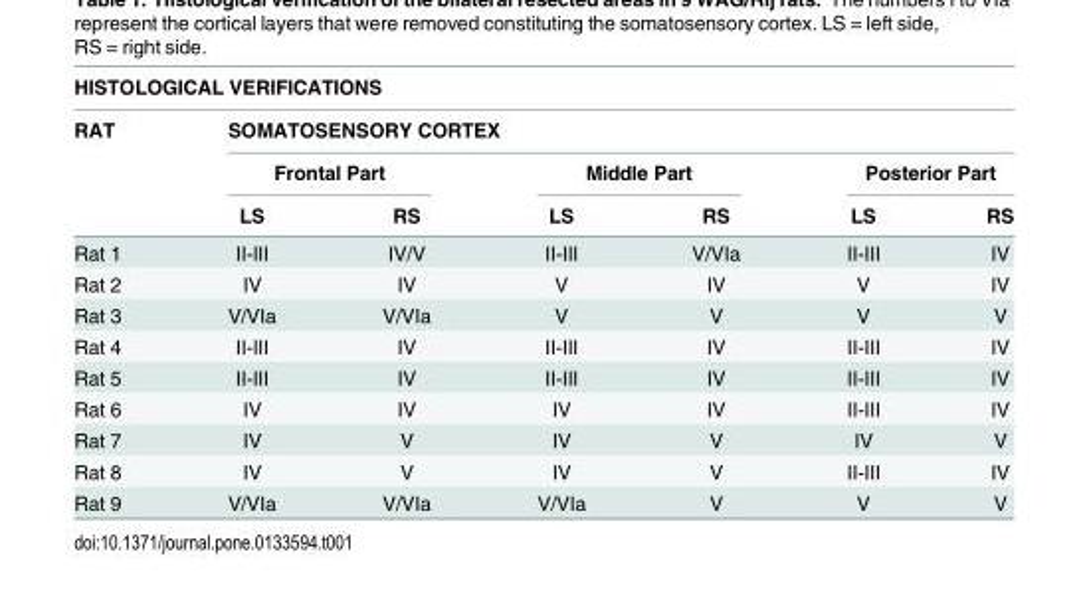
<table><thead><tr><td colspan="7">HISTOLOGICAL VERIFICATIONS</td></tr><tr><td rowspan="3">RAT</td><td colspan="6">SOMATOSENSORY CORTEX</td></tr><tr><td colspan="2">Frontal Part</td><td colspan="2">Middle Part</td><td colspan="2">Posterior Part</td></tr><tr><td>LS</td><td>RS</td><td>LS</td><td>RS</td><td>LS</td><td>RS</td></tr></thead><tbody><tr><td>Rat 1</td><td>II-III</td><td>IV/V</td><td>II-III</td><td>V/VIa</td><td>II-III</td><td>IV</td></tr><tr><td>Rat 2</td><td>IV</td><td>IV</td><td>V</td><td>IV</td><td>V</td><td>IV</td></tr><tr><td>Rat 3</td><td>V/VIa</td><td>V/VIa</td><td>V</td><td>V</td><td>V</td><td>V</td></tr><tr><td>Rat 4</td><td>II-III</td><td>IV</td><td>II-III</td><td>IV</td><td>II-III</td><td>IV</td></tr><tr><td>Rat 5</td><td>II-III</td><td>IV</td><td>II-III</td><td>IV</td><td>II-III</td><td>IV</td></tr><tr><td>Rat 6</td><td>IV</td><td>IV</td><td>IV</td><td>IV</td><td>II-III</td><td>IV</td></tr><tr><td>Rat 7</td><td>IV</td><td>V</td><td>IV</td><td>V</td><td>IV</td><td>V</td></tr><tr><td>Rat 8</td><td>IV</td><td>V</td><td>IV</td><td>V</td><td>II-III</td><td>IV</td></tr><tr><td>Rat 9</td><td>V/VIa</td><td>V/VIa</td><td>V/VIa</td><td>V</td><td>V</td><td>V</td></tr></tbody></table>